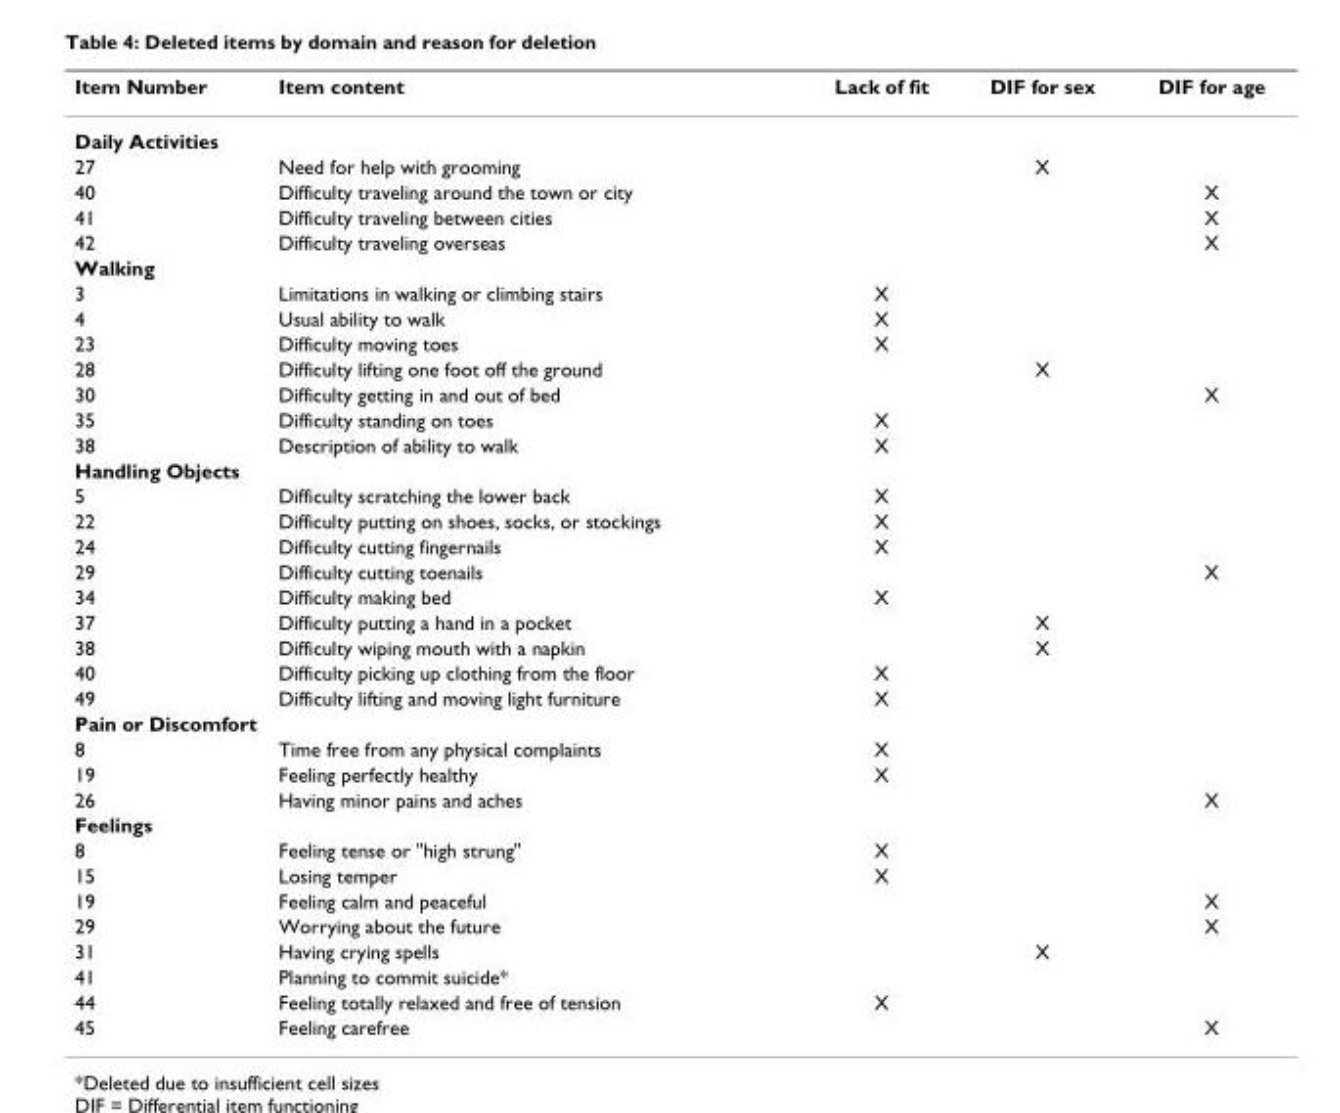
<table><thead><tr><td>Item Number</td><td>Item content</td><td>Lack of fit</td><td>DIF for sex</td><td>DIF for age</td></tr></thead><tbody><tr><td colspan="5">Daily Activities</td></tr><tr><td>27</td><td>Need for help with grooming</td><td></td><td>X</td><td></td></tr><tr><td>40</td><td>Difficulty traveling around the town or city</td><td></td><td></td><td>X</td></tr><tr><td>41</td><td>Difficulty traveling between cities</td><td></td><td></td><td>X</td></tr><tr><td>42</td><td>Difficulty traveling overseas</td><td></td><td></td><td>X</td></tr><tr><td colspan="5">Walking</td></tr><tr><td>3</td><td>Limitations in walking or climbing stairs</td><td>X</td><td></td><td></td></tr><tr><td>4</td><td>Usual ability to walk</td><td>X</td><td></td><td></td></tr><tr><td>23</td><td>Difficulty moving toes</td><td>X</td><td></td><td></td></tr><tr><td>28</td><td>Difficulty lifting one foot off the ground</td><td></td><td>X</td><td></td></tr><tr><td>30</td><td>Difficulty getting in and out of bed</td><td></td><td></td><td>X</td></tr><tr><td>35</td><td>Difficulty standing on toes</td><td>X</td><td></td><td></td></tr><tr><td>38</td><td>Description of ability to walk</td><td>X</td><td></td><td></td></tr><tr><td colspan="5">Handling Objects</td></tr><tr><td>5</td><td>Difficulty scratching the lower back</td><td>X</td><td></td><td></td></tr><tr><td>22</td><td>Difficulty putting on shoes, socks, or stockings</td><td>X</td><td></td><td></td></tr><tr><td>24</td><td>Difficulty cutting fingernails</td><td>X</td><td></td><td></td></tr><tr><td>29</td><td>Difficulty cutting toenails</td><td></td><td></td><td>X</td></tr><tr><td>34</td><td>Difficulty making bed</td><td>X</td><td></td><td></td></tr><tr><td>37</td><td>Difficulty putting a hand in a pocket</td><td></td><td>X</td><td></td></tr><tr><td>38</td><td>Difficulty wiping mouth with a napkin</td><td></td><td>X</td><td></td></tr><tr><td>40</td><td>Difficulty picking up clothing from the floor</td><td>X</td><td></td><td></td></tr><tr><td>49</td><td>Difficulty lifting and moving light furniture</td><td>X</td><td></td><td></td></tr><tr><td colspan="5">Pain or Discomfort</td></tr><tr><td>8</td><td>Time free from any physical complaints</td><td>X</td><td></td><td></td></tr><tr><td>19</td><td>Feeling perfectly healthy</td><td>X</td><td></td><td></td></tr><tr><td>26</td><td>Having minor pains and aches</td><td></td><td></td><td>X</td></tr><tr><td colspan="5">Feelings</td></tr><tr><td>8</td><td>Feeling tense or &quot;high strung&quot;</td><td>X</td><td></td><td></td></tr><tr><td>15</td><td>Losing temper</td><td>X</td><td></td><td></td></tr><tr><td>19</td><td>Feeling calm and peaceful</td><td></td><td></td><td>X</td></tr><tr><td>29</td><td>Worrying about the future</td><td></td><td></td><td>X</td></tr><tr><td>31</td><td>Having crying spells</td><td></td><td>X</td><td></td></tr><tr><td>41</td><td>Planning to commit suicide*</td><td></td><td></td><td></td></tr><tr><td>44</td><td>Feeling totally relaxed and free of tension</td><td>X</td><td></td><td></td></tr><tr><td>45</td><td>Feeling carefree</td><td></td><td></td><td>X</td></tr></tbody></table>